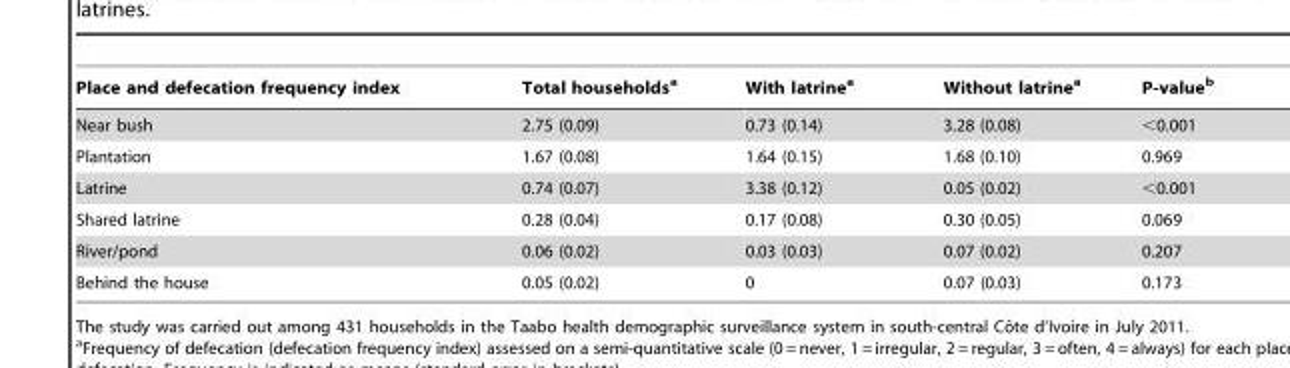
<table><thead><tr><td>Place and defecation frequency index</td><td>Total households<sup>a</sup></td><td>With latrine<sup>a</sup></td><td>Without latrine<sup>a</sup></td><td>P-value<sup>b</sup></td></tr></thead><tbody><tr><td>Near bush</td><td>2.75 (0.09)</td><td>0.73 (0.14)</td><td>3.28 (0.08)</td><td>&lt;0.001</td></tr><tr><td>Plantation</td><td>1.67 (0.08)</td><td>1.64 (0.15)</td><td>1.68 (0.10)</td><td>0.969</td></tr><tr><td>Latrine</td><td>0.74 (0.07)</td><td>3.38 (0.12)</td><td>0.05 (0.02)</td><td>&lt;0.001</td></tr><tr><td>Shared latrine</td><td>0.28 (0.04)</td><td>0.17 (0.08)</td><td>0.30 (0.05)</td><td>0.069</td></tr><tr><td>River/pond</td><td>0.06 (0.02)</td><td>0.03 (0.03)</td><td>0.07 (0.02)</td><td>0.207</td></tr><tr><td>Behind the house</td><td>0.05 (0.02)</td><td>0</td><td>0.07 (0.03)</td><td>0.173</td></tr></tbody></table>